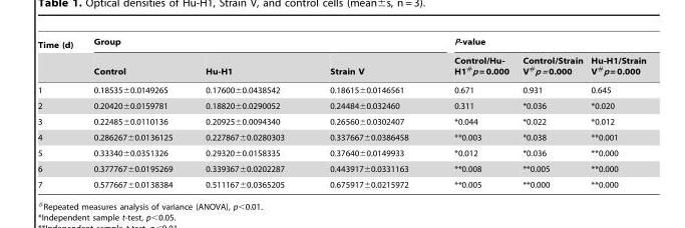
<table><thead><tr><td rowspan="2">Time (d)</td><td colspan="3">Group</td><td colspan="3">P-value</td></tr><tr><td>Control</td><td>Hu-H1</td><td>Strain V</td><td>Control/Hu- H1#p = 0.000</td><td>Control/Strain V#p = 0.000</td><td>Hu-H1/Strain V#p = 0.000</td></tr></thead><tbody><tr><td>1</td><td>0.18535±0.0149265</td><td>0.17600±0.0438542</td><td>0.18615±0.0146561</td><td>0.671</td><td>0.931</td><td>0.645</td></tr><tr><td>2</td><td>0.20420±0.0159781</td><td>0.18820±0.0290052</td><td>0.24484±0.032460</td><td>0.311</td><td>*0.036</td><td>*0.020</td></tr><tr><td>3</td><td>0.22485±0.0110136</td><td>0.20925±0.0094340</td><td>0.26560±0.0302407</td><td>*0.044</td><td>*0.022</td><td>*0.012</td></tr><tr><td>4</td><td>0.286267±0.0136125</td><td>0.227867±0.0280303</td><td>0.337667±0.0386458</td><td>**0.003</td><td>*0.038</td><td>**0.001</td></tr><tr><td>5</td><td>0.33340±0.0351326</td><td>0.29320±0.0158335</td><td>0.37640±0.0149933</td><td>*0.012</td><td>*0.036</td><td>**0.000</td></tr><tr><td>6</td><td>0.377767±0.0195269</td><td>0.339367±0.0202287</td><td>0.443917±0.0331163</td><td>**0.008</td><td>**0.005</td><td>**0.000</td></tr><tr><td>7</td><td>0.577667±0.0138384</td><td>0.511167±0.0365205</td><td>0.675917±0.0215972</td><td>**0.005</td><td>**0.000</td><td>**0.000</td></tr></tbody></table>